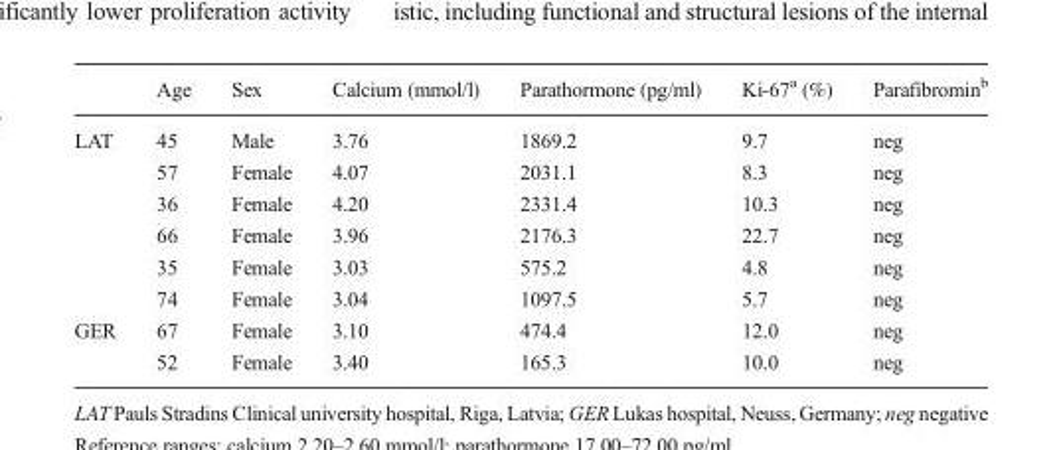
<table><thead><tr><td></td><td>Age</td><td>Sex</td><td>Calcium (mmol/l)</td><td>Parathormone (pg/ml)</td><td>Ki-67<sup>a</sup> (%)</td><td>Parafibromin<sup>b</sup></td></tr></thead><tbody><tr><td rowspan="6">LAT</td><td>45</td><td>Male</td><td>3.76</td><td>1869.2</td><td>9.7</td><td>neg</td></tr><tr><td>57</td><td>Female</td><td>4.07</td><td>2031.1</td><td>8.3</td><td>neg</td></tr><tr><td>36</td><td>Female</td><td>4.20</td><td>2331.4</td><td>10.3</td><td>neg</td></tr><tr><td>66</td><td>Female</td><td>3.96</td><td>2176.3</td><td>22.7</td><td>neg</td></tr><tr><td>35</td><td>Female</td><td>3.03</td><td>575.2</td><td>4.8</td><td>neg</td></tr><tr><td>74</td><td>Female</td><td>3.04</td><td>1097.5</td><td>5.7</td><td>neg</td></tr><tr><td rowspan="2">GER</td><td>67</td><td>Female</td><td>3.10</td><td>474.4</td><td>12.0</td><td>neg</td></tr><tr><td>52</td><td>Female</td><td>3.40</td><td>165.3</td><td>10.0</td><td>neg</td></tr></tbody></table>